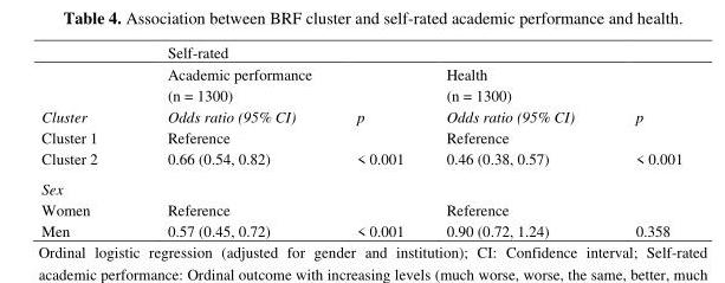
<table><thead><tr><td rowspan="2"></td><td colspan="3">Self-rated</td><td rowspan="2"></td></tr><tr><td>Academic performance (n = 1300)</td><td></td><td>Health (n = 1300)</td></tr></thead><tbody><tr><td>Cluster</td><td>Odds ratio (95% CI)</td><td>p</td><td>Odds ratio (95% CI)</td><td>p</td></tr><tr><td>Cluster 1</td><td>Reference</td><td></td><td>Reference</td><td></td></tr><tr><td>Cluster 2</td><td>0.66 (0.54, 0.82)</td><td>&lt; 0.001</td><td>0.46 (0.38, 0.57)</td><td>&lt; 0.001</td></tr><tr><td colspan="5">Sex</td></tr><tr><td>Women</td><td>Reference</td><td></td><td>Reference</td><td></td></tr><tr><td>Men</td><td>0.57 (0.45, 0.72)</td><td>&lt; 0.001</td><td>0.90 (0.72, 1.24)</td><td>0.358</td></tr></tbody></table>